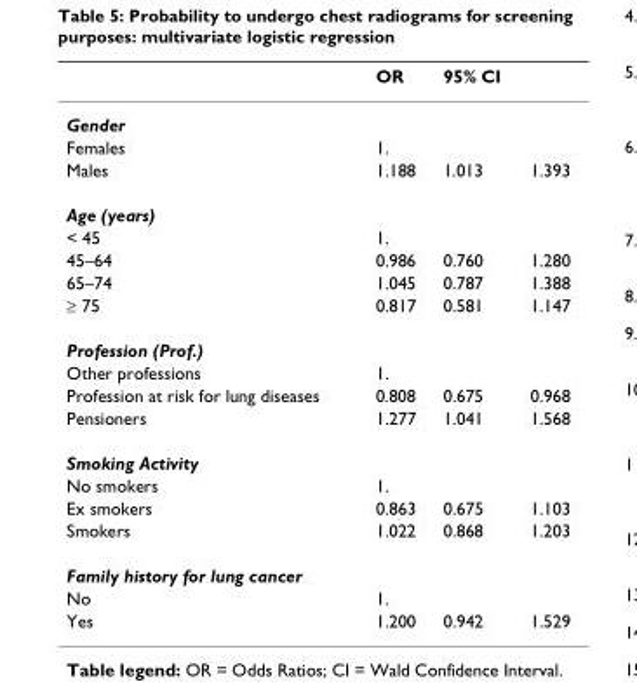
<table><thead><tr><td></td><td>OR</td><td>95% CI</td><td></td></tr></thead><tbody><tr><td colspan="4">Gender</td></tr><tr><td>Females</td><td>1.</td><td></td><td></td></tr><tr><td>Males</td><td>1.188</td><td>1.013</td><td>1.393</td></tr><tr><td colspan="4">Age (years)</td></tr><tr><td>&lt; 45</td><td>1.</td><td></td><td></td></tr><tr><td>45–64</td><td>0.986</td><td>0.760</td><td>1.280</td></tr><tr><td>65–74</td><td>1.045</td><td>0.787</td><td>1.388</td></tr><tr><td>≥ 75</td><td>0.817</td><td>0.581</td><td>1.147</td></tr><tr><td colspan="4">Profession (Prof.)</td></tr><tr><td>Other professions</td><td>1.</td><td></td><td></td></tr><tr><td>Profession at risk for lung diseases</td><td>0.808</td><td>0.675</td><td>0.968</td></tr><tr><td>Pensioners</td><td>1.277</td><td>1.041</td><td>1.568</td></tr><tr><td colspan="4">Smoking Activity</td></tr><tr><td>No smokers</td><td>1.</td><td></td><td></td></tr><tr><td>Ex smokers</td><td>0.863</td><td>0.675</td><td>1.103</td></tr><tr><td>Smokers</td><td>1.022</td><td>0.868</td><td>1.203</td></tr><tr><td colspan="4">Family history for lung cancer</td></tr><tr><td>No</td><td>1.</td><td></td><td></td></tr><tr><td>Yes</td><td>1.200</td><td>0.942</td><td>1.529</td></tr></tbody></table>